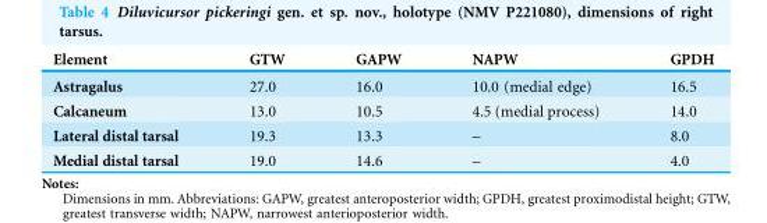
<table><thead><tr><td>Element</td><td>GTW</td><td>GAPW</td><td>NAPW</td><td>GPDH</td></tr></thead><tbody><tr><td>Astragalus</td><td>27.0</td><td>16.0</td><td>10.0 (medial edge)</td><td>16.5</td></tr><tr><td>Calcaneum</td><td>13.0</td><td>10.5</td><td>4.5 (medial process)</td><td>14.0</td></tr><tr><td>Lateral distal tarsal</td><td>19.3</td><td>13.3</td><td>–</td><td>8.0</td></tr><tr><td>Medial distal tarsal</td><td>19.0</td><td>14.6</td><td>–</td><td>4.0</td></tr></tbody></table>